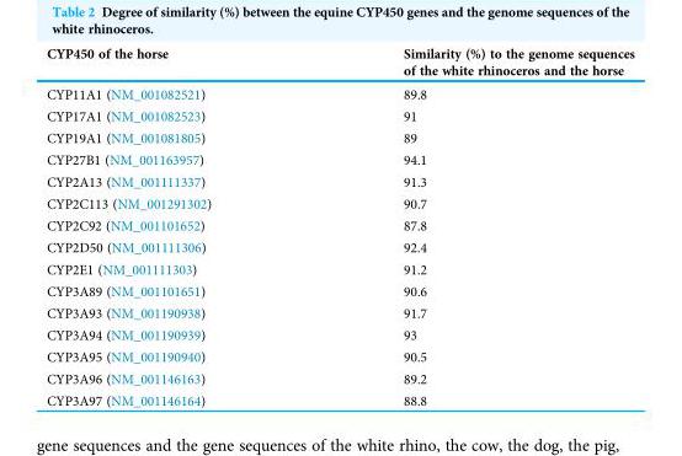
<table><thead><tr><td>CYP450 of the horse</td><td>Similarity (%) to the genome sequences of the white rhinoceros and the horse</td></tr></thead><tbody><tr><td>CYP11A1 (NM_001082521)</td><td>89.8</td></tr><tr><td>CYP17A1 (NM_001082523)</td><td>91</td></tr><tr><td>CYP19A1 (NM_001081805)</td><td>89</td></tr><tr><td>CYP27B1 (NM_001163957)</td><td>94.1</td></tr><tr><td>CYP2A13 (NM_001111337)</td><td>91.3</td></tr><tr><td>CYP2C113 (NM_001291302)</td><td>90.7</td></tr><tr><td>CYP2C92 (NM_001101652)</td><td>87.8</td></tr><tr><td>CYP2D50 (NM_001111306)</td><td>92.4</td></tr><tr><td>CYP2E1 (NM_001111303)</td><td>91.2</td></tr><tr><td>CYP3A89 (NM_001101651)</td><td>90.6</td></tr><tr><td>CYP3A93 (NM_001190938)</td><td>91.7</td></tr><tr><td>CYP3A94 (NM_001190939)</td><td>93</td></tr><tr><td>CYP3A95 (NM_001190940)</td><td>90.5</td></tr><tr><td>CYP3A96 (NM_001146163)</td><td>89.2</td></tr><tr><td>CYP3A97 (NM_001146164)</td><td>88.8</td></tr></tbody></table>